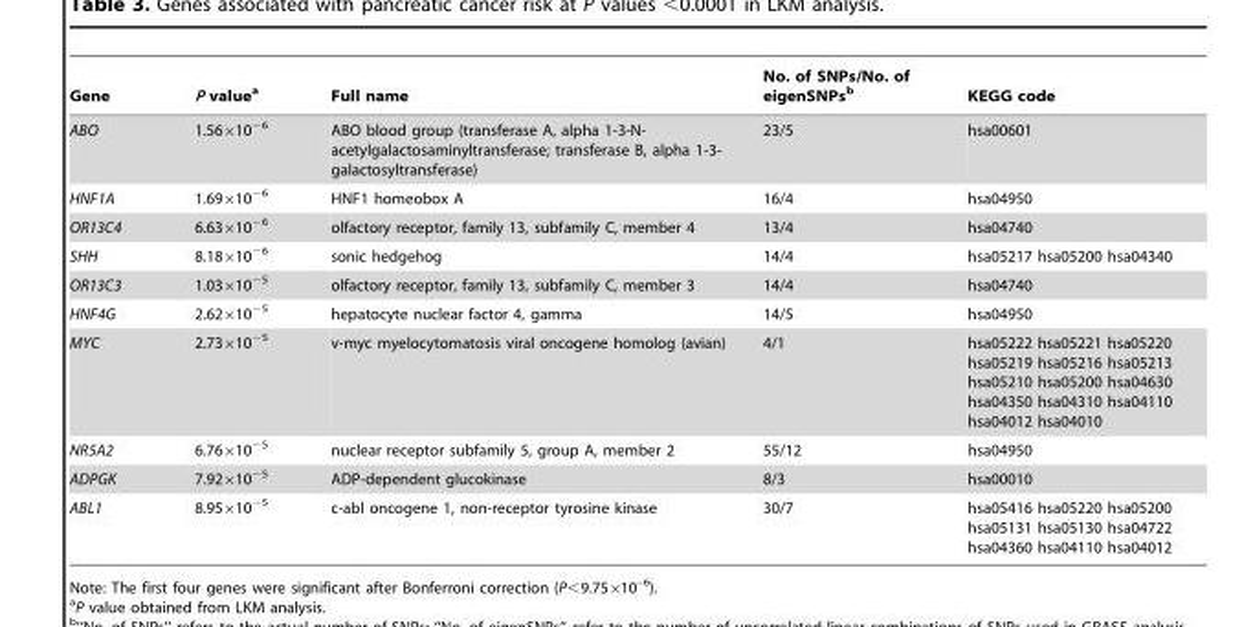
<table><thead><tr><td>Gene</td><td>P value<sup>a</sup></td><td>Full name</td><td>No. of SNPs/No. of eigenSNPs<sup>b</sup></td><td>KEGG code</td></tr></thead><tbody><tr><td>ABO</td><td>1.56×10<sup>−6</sup></td><td>ABO blood group (transferase A, alpha 1-3-N- acetylgalactosaminyltransferase; transferase B, alpha 1-3- galactosyltransferase)</td><td>23/5</td><td>hsa00601</td></tr><tr><td>HNF1A</td><td>1.69×10<sup>−6</sup></td><td>HNF1 homeobox A</td><td>16/4</td><td>hsa04950</td></tr><tr><td>OR13C4</td><td>6.63×10<sup>−6</sup></td><td>olfactory receptor, family 13, subfamily C, member 4</td><td>13/4</td><td>hsa04740</td></tr><tr><td>SHH</td><td>8.18×10<sup>−6</sup></td><td>sonic hedgehog</td><td>14/4</td><td>hsa05217 hsa05200 hsa04340</td></tr><tr><td>OR13C3</td><td>1.03×10<sup>−5</sup></td><td>olfactory receptor, family 13, subfamily C, member 3</td><td>14/4</td><td>hsa04740</td></tr><tr><td>HNF4G</td><td>2.62×10<sup>−5</sup></td><td>hepatocyte nuclear factor 4, gamma</td><td>14/5</td><td>hsa04950</td></tr><tr><td>MYC</td><td>2.73×10<sup>−5</sup></td><td>v-myc myelocytomatosis viral oncogene homolog (avian)</td><td>4/1</td><td>hsa05222 hsa05221 hsa05220 hsa05219 hsa05216 hsa05213 hsa05210 hsa05200 hsa04630 hsa04350 hsa04310 hsa04110 hsa04012 hsa04010</td></tr><tr><td>NR5A2</td><td>6.76×10<sup>−5</sup></td><td>nuclear receptor subfamily 5, group A, member 2</td><td>55/12</td><td>hsa04950</td></tr><tr><td>ADPGK</td><td>7.92×10<sup>−5</sup></td><td>ADP-dependent glucokinase</td><td>8/3</td><td>hsa00010</td></tr><tr><td>ABL1</td><td>8.95×10<sup>−5</sup></td><td>c-abl oncogene 1, non-receptor tyrosine kinase</td><td>30/7</td><td>hsa05416 hsa05220 hsa05200 hsa05131 hsa05130 hsa04722 hsa04360 hsa04110 hsa04012</td></tr></tbody></table>